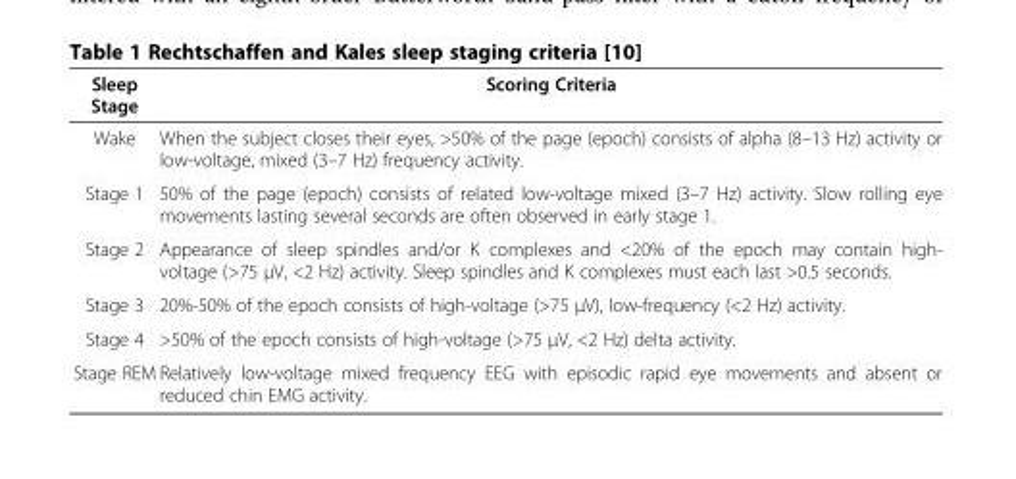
<table><thead><tr><td>Sleep Stage</td><td>Scoring Criteria</td></tr></thead><tbody><tr><td>Wake</td><td>When the subject closes their eyes, &gt;50% of the page (epoch) consists of alpha (8–13 Hz) activity or low-voltage, mixed (3–7 Hz) frequency activity.</td></tr><tr><td>Stage 1</td><td>50% of the page (epoch) consists of related low-voltage mixed (3–7 Hz) activity. Slow rolling eye movements lasting several seconds are often observed in early stage 1.</td></tr><tr><td>Stage 2</td><td>Appearance of sleep spindles and/or K complexes and &lt;20% of the epoch may contain high- voltage (&gt;75 μV, &lt;2 Hz) activity. Sleep spindles and K complexes must each last &gt;0.5 seconds.</td></tr><tr><td>Stage 3</td><td>20%-50% of the epoch consists of high-voltage (&gt;75 μV), low-frequency (&lt;2 Hz) activity.</td></tr><tr><td>Stage 4</td><td>&gt;50% of the epoch consists of high-voltage (&gt;75 μV, &lt;2 Hz) delta activity.</td></tr><tr><td>Stage REM</td><td>Relatively low-voltage mixed frequency EEG with episodic rapid eye movements and absent or reduced chin EMG activity.</td></tr></tbody></table>